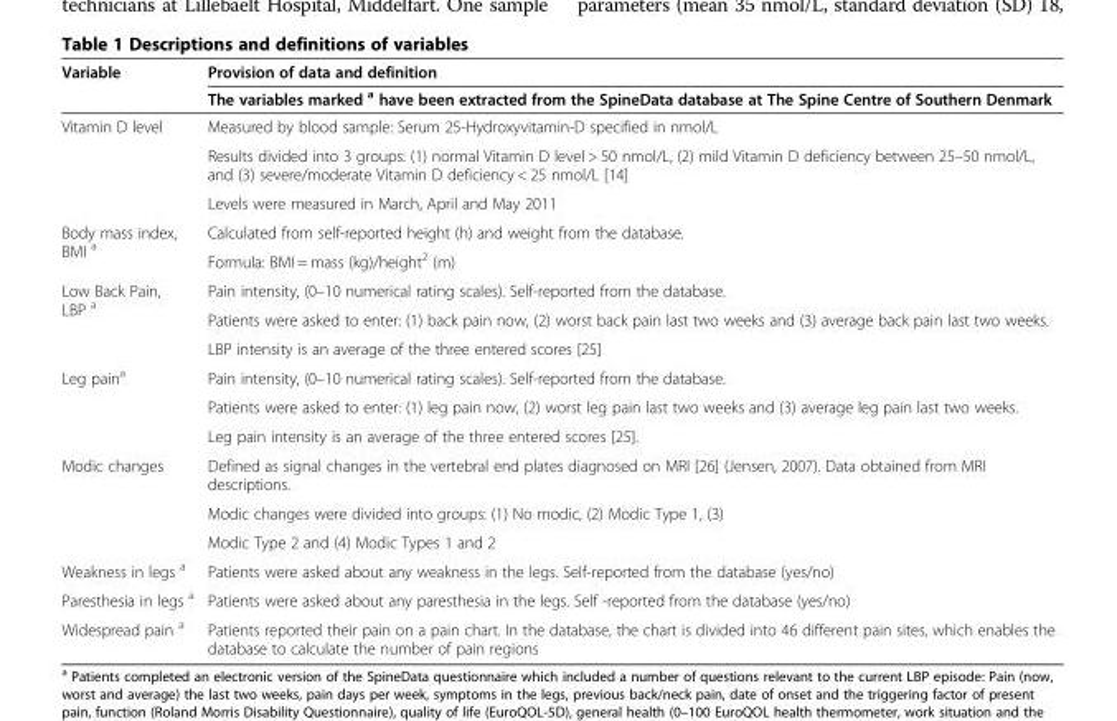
<table><thead><tr><td rowspan="2">Variable</td><td rowspan="2">Provision of data and definition The variables marked <sup>a</sup> have been extracted from the SpineData database at The Spine Centre of Southern Denmark</td></tr><tr></tr></thead><tbody><tr><td rowspan="3">Vitamin D level</td><td>Measured by blood sample: Serum 25-Hydroxyvitamin-D specified in nmol/L</td></tr><tr><td>Results divided into 3 groups: (1) normal Vitamin D level &gt; 50 nmol/L, (2) mild Vitamin D deficiency between 25–50 nmol/L, and (3) severe/moderate Vitamin D deficiency &lt; 25 nmol/L [14]</td></tr><tr><td>Levels were measured in March, April and May 2011</td></tr><tr><td rowspan="2">Body mass index, BMI <sup>a</sup></td><td>Calculated from self-reported height (h) and weight from the database.</td></tr><tr><td>Formula: BMI = mass (kg)/height<sup>2</sup> (m)</td></tr><tr><td rowspan="3">Low Back Pain, LBP <sup>a</sup></td><td>Pain intensity, (0–10 numerical rating scales). Self-reported from the database.</td></tr><tr><td>Patients were asked to enter: (1) back pain now, (2) worst back pain last two weeks and (3) average back pain last two weeks.</td></tr><tr><td>LBP intensity is an average of the three entered scores [25]</td></tr><tr><td rowspan="3">Leg pain<sup>a</sup></td><td>Pain intensity, (0–10 numerical rating scales). Self-reported from the database.</td></tr><tr><td>Patients were asked to enter: (1) leg pain now, (2) worst leg pain last two weeks and (3) average leg pain last two weeks.</td></tr><tr><td>Leg pain intensity is an average of the three entered scores [25].</td></tr><tr><td rowspan="3">Modic changes</td><td>Defined as signal changes in the vertebral end plates diagnosed on MRI [26] (Jensen, 2007). Data obtained from MRI descriptions.</td></tr><tr><td>Modic changes were divided into groups: (1) No modic, (2) Modic Type 1, (3)</td></tr><tr><td>Modic Type 2 and (4) Modic Types 1 and 2</td></tr><tr><td>Weakness in legs <sup>a</sup></td><td>Patients were asked about any weakness in the legs. Self-reported from the database (yes/no)</td></tr><tr><td>Paresthesia in legs <sup>a</sup></td><td>Patients were asked about any paresthesia in the legs. Self -reported from the database (yes/no)</td></tr><tr><td>Widespread pain <sup>a</sup></td><td>Patients reported their pain on a pain chart. In the database, the chart is divided into 46 different pain sites, which enables the database to calculate the number of pain regions</td></tr></tbody></table>